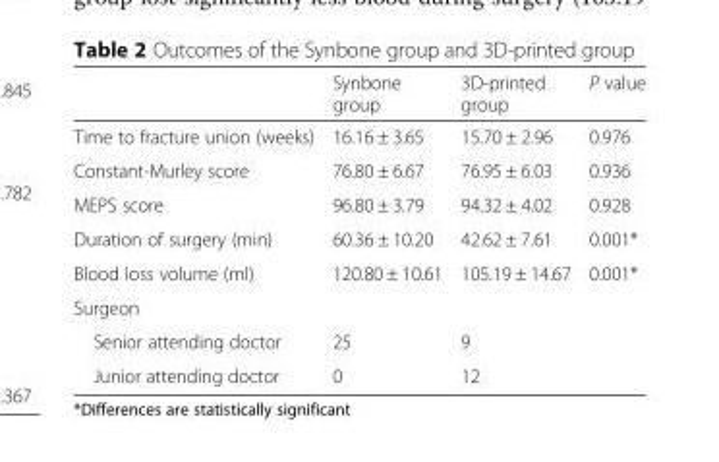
<table><thead><tr><td></td><td>Synbone group</td><td>3D-printed group</td><td>P value</td></tr></thead><tbody><tr><td>Time to fracture union (weeks)</td><td>16.16 ± 3.65</td><td>15.70 ± 2.96</td><td>0.976</td></tr><tr><td>Constant-Murley score</td><td>76.80 ± 6.67</td><td>76.95 ± 6.03</td><td>0.936</td></tr><tr><td>MEPS score</td><td>96.80 ± 3.79</td><td>94.32 ± 4.02</td><td>0.928</td></tr><tr><td>Duration of surgery (min)</td><td>60.36 ± 10.20</td><td>42.62 ± 7.61</td><td>0.001*</td></tr><tr><td>Blood loss volume (ml)</td><td>120.80 ± 10.61</td><td>105.19 ± 14.67</td><td>0.001*</td></tr><tr><td colspan="4">Surgeon</td></tr><tr><td>Senior attending doctor</td><td>25</td><td>9</td><td></td></tr><tr><td>Junior attending doctor</td><td>0</td><td>12</td><td></td></tr></tbody></table>